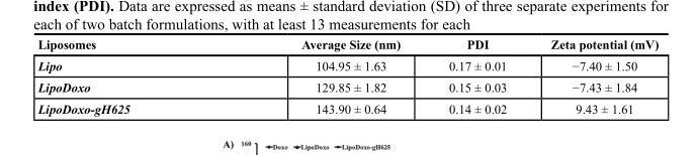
<table><thead><tr><td>Liposomes</td><td>Average Size (nm)</td><td>PDI</td><td>Zeta potential (mV)</td></tr></thead><tbody><tr><td>Lipo</td><td>104.95 ± 1.63</td><td>0.17 ± 0.01</td><td>−7.40 ± 1.50</td></tr><tr><td>LipoDoxo</td><td>129.85 ± 1.82</td><td>0.15 ± 0.03</td><td>−7.43 ± 1.84</td></tr><tr><td>LipoDoxo-gH625</td><td>143.90 ± 0.64</td><td>0.14 ± 0.02</td><td>9.43 ± 1.61</td></tr></tbody></table>